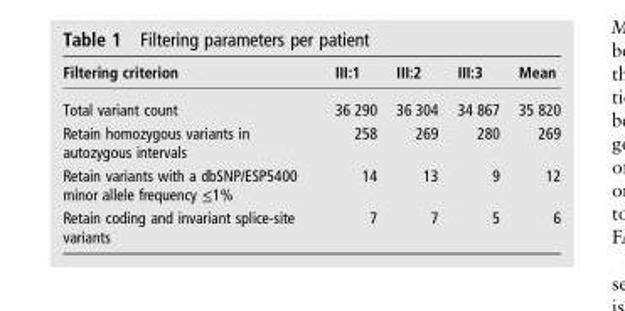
<table><thead><tr><td>Filtering criterion</td><td>III:1</td><td>III:2</td><td>III:3</td><td>Mean</td></tr></thead><tbody><tr><td>Total variant count</td><td>36 290</td><td>36 304</td><td>34 867</td><td>35 820</td></tr><tr><td>Retain homozygous variants in autozygous intervals</td><td>258</td><td>269</td><td>280</td><td>269</td></tr><tr><td>Retain variants with a dbSNP/ESP5400 minor allele frequency ≤1%</td><td>14</td><td>13</td><td>9</td><td>12</td></tr><tr><td>Retain coding and invariant splice-site variants</td><td>7</td><td>7</td><td>5</td><td>6</td></tr></tbody></table>